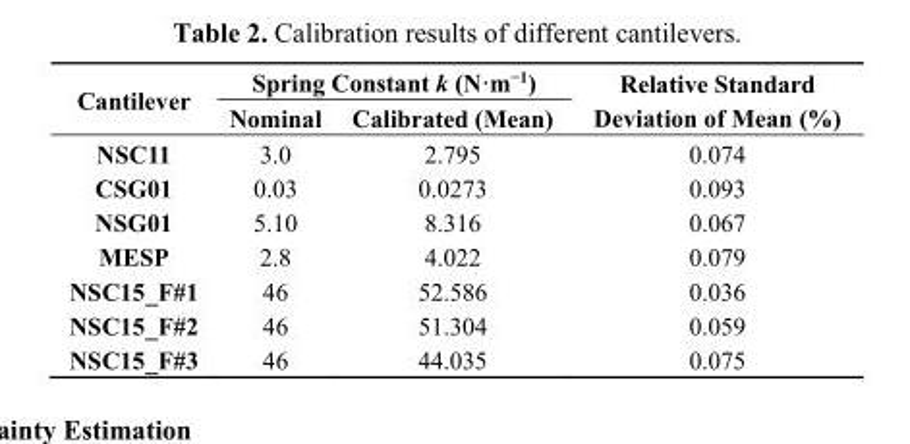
<table><thead><tr><td rowspan="2">Cantilever</td><td colspan="2">Spring Constant k (N·m<sup>−1</sup>)</td><td rowspan="2">Relative Standard Deviation of Mean (%)</td></tr><tr><td>Nominal</td><td>Calibrated (Mean)</td></tr></thead><tbody><tr><td>NSC11</td><td>3.0</td><td>2.795</td><td>0.074</td></tr><tr><td>CSG01</td><td>0.03</td><td>0.0273</td><td>0.093</td></tr><tr><td>NSG01</td><td>5.10</td><td>8.316</td><td>0.067</td></tr><tr><td>MESP</td><td>2.8</td><td>4.022</td><td>0.079</td></tr><tr><td>NSC15_F#1</td><td>46</td><td>52.586</td><td>0.036</td></tr><tr><td>NSC15_F#2</td><td>46</td><td>51.304</td><td>0.059</td></tr><tr><td>NSC15_F#3</td><td>46</td><td>44.035</td><td>0.075</td></tr></tbody></table>